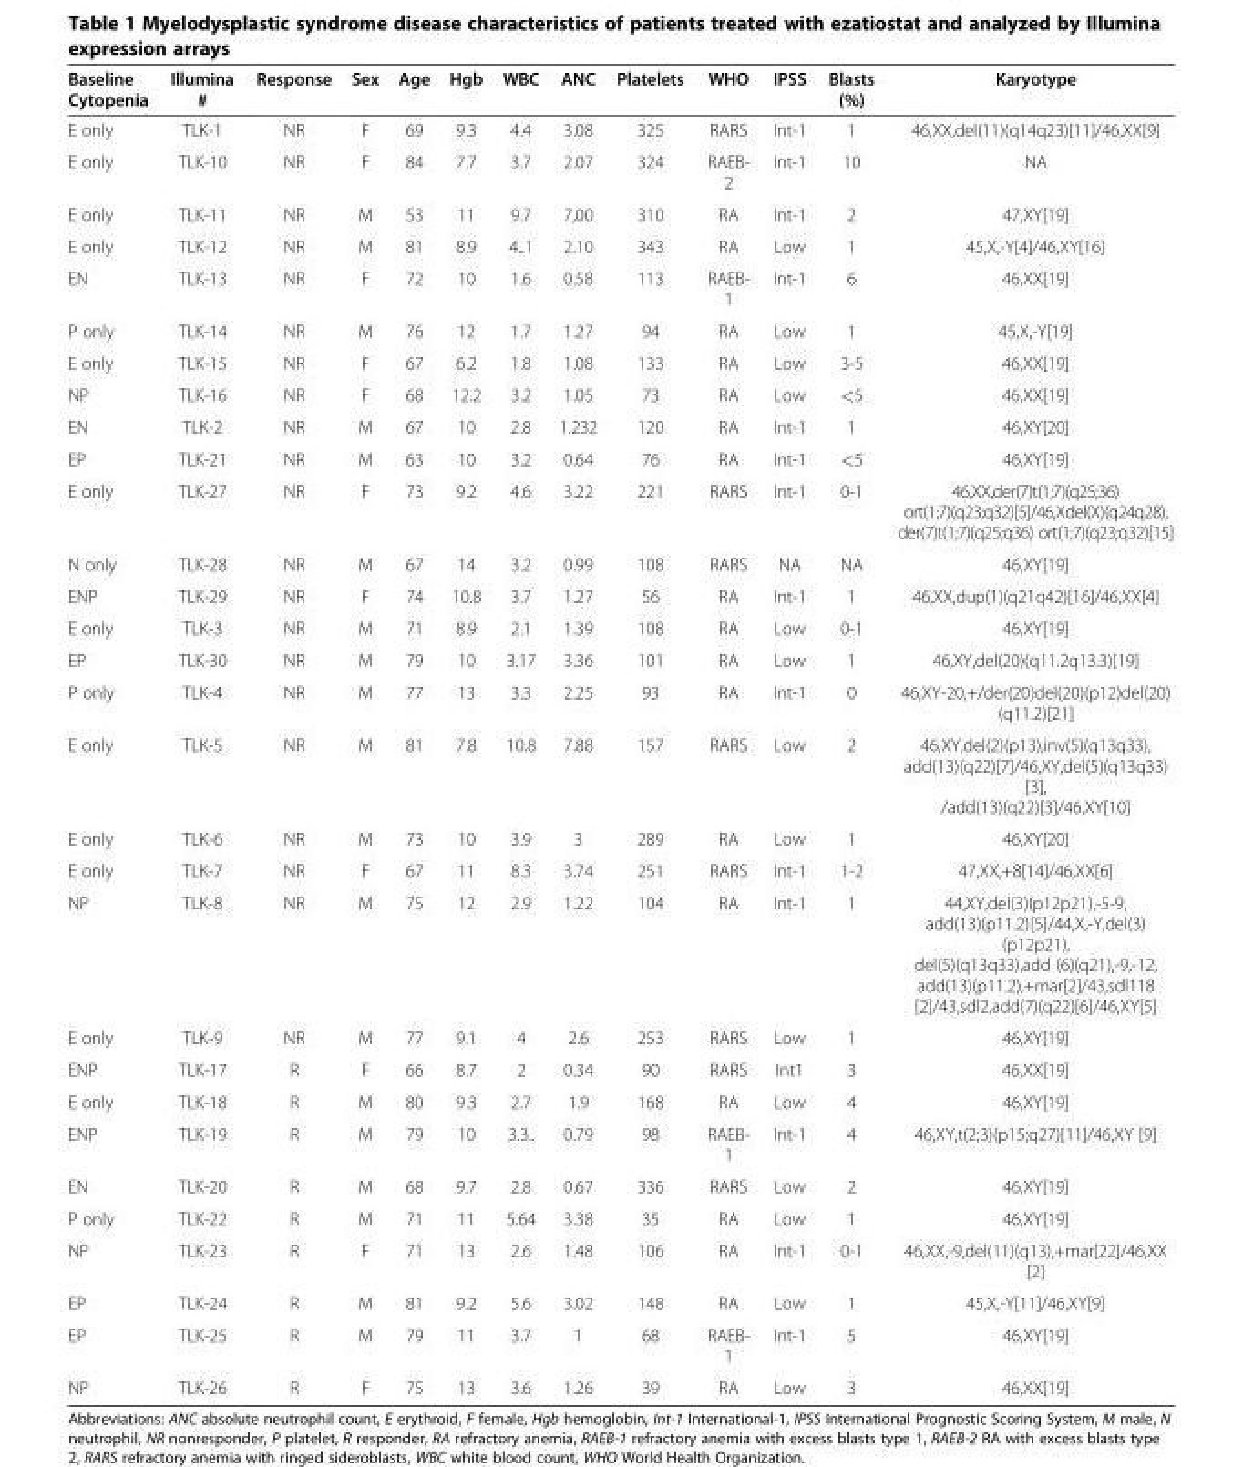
<table><thead><tr><td>Baseline Cytopenia</td><td>Illumina #</td><td>Response</td><td>Sex</td><td>Age</td><td>Hgb</td><td>WBC</td><td>ANC</td><td>Platelets</td><td>WHO</td><td>IPSS</td><td>Blasts (%)</td><td>Karyotype</td></tr></thead><tbody><tr><td>E only</td><td>TLK-1</td><td>NR</td><td>F</td><td>69</td><td>9.3</td><td>4.4</td><td>3.08</td><td>325</td><td>RARS</td><td>Int-1</td><td>1</td><td>46,XX,del(11)(q14q23)[11]/46,XX[9]</td></tr><tr><td>E only</td><td>TLK-10</td><td>NR</td><td>F</td><td>84</td><td>7.7</td><td>3.7</td><td>2.07</td><td>324</td><td>RAEB- 2</td><td>Int-1</td><td>10</td><td>NA</td></tr><tr><td>E only</td><td>TLK-11</td><td>NR</td><td>M</td><td>53</td><td>11</td><td>9.7</td><td>7,00</td><td>310</td><td>RA</td><td>Int-1</td><td>2</td><td>47,XY[19]</td></tr><tr><td>E only</td><td>TLK-12</td><td>NR</td><td>M</td><td>81</td><td>8.9</td><td>4..1</td><td>2.10</td><td>343</td><td>RA</td><td>Low</td><td>1</td><td>45,X,-Y[4]/46,XY[16]</td></tr><tr><td>EN</td><td>TLK-13</td><td>NR</td><td>F</td><td>72</td><td>10</td><td>1.6</td><td>0.58</td><td>113</td><td>RAEB- 1</td><td>Int-1</td><td>6</td><td>46,XX[19]</td></tr><tr><td>P only</td><td>TLK-14</td><td>NR</td><td>M</td><td>76</td><td>12</td><td>1.7</td><td>1.27</td><td>94</td><td>RA</td><td>Low</td><td>1</td><td>45,X,-Y[19]</td></tr><tr><td>E only</td><td>TLK-15</td><td>NR</td><td>F</td><td>67</td><td>6.2</td><td>1.8</td><td>1.08</td><td>133</td><td>RA</td><td>Low</td><td>3-5</td><td>46,XX[19]</td></tr><tr><td>NP</td><td>TLK-16</td><td>NR</td><td>F</td><td>68</td><td>12.2</td><td>3.2</td><td>1.05</td><td>73</td><td>RA</td><td>Low</td><td>&lt;5</td><td>46,XX[19]</td></tr><tr><td>EN</td><td>TLK-2</td><td>NR</td><td>M</td><td>67</td><td>10</td><td>2.8</td><td>1.232</td><td>120</td><td>RA</td><td>Int-1</td><td>1</td><td>46,XY[20]</td></tr><tr><td>EP</td><td>TLK-21</td><td>NR</td><td>M</td><td>63</td><td>10</td><td>3.2</td><td>0.64</td><td>76</td><td>RA</td><td>Int-1</td><td>&lt;5</td><td>46,XY[19]</td></tr><tr><td>E only</td><td>TLK-27</td><td>NR</td><td>F</td><td>73</td><td>9.2</td><td>4.6</td><td>3.22</td><td>221</td><td>RARS</td><td>Int-1</td><td>0-1</td><td>46,XX,der(7)t(1;7)(q25;36) ort(1;7)(q23;q32)[5]/46,Xdel(X)(q24q28), der(7)t(1;7)(q25;q36) ort(1;7)(q23;q32)[15]</td></tr><tr><td>N only</td><td>TLK-28</td><td>NR</td><td>M</td><td>67</td><td>14</td><td>3.2</td><td>0.99</td><td>108</td><td>RARS</td><td>NA</td><td>NA</td><td>46,XY[19]</td></tr><tr><td>ENP</td><td>TLK-29</td><td>NR</td><td>F</td><td>74</td><td>10.8</td><td>3.7</td><td>1.27</td><td>56</td><td>RA</td><td>Int-1</td><td>1</td><td>46,XX,dup(1)(q21q42)[16]/46,XX[4]</td></tr><tr><td>E only</td><td>TLK-3</td><td>NR</td><td>M</td><td>71</td><td>8.9</td><td>2.1</td><td>1.39</td><td>108</td><td>RA</td><td>Low</td><td>0-1</td><td>46,XY[19]</td></tr><tr><td>EP</td><td>TLK-30</td><td>NR</td><td>M</td><td>79</td><td>10</td><td>3.17</td><td>3.36</td><td>101</td><td>RA</td><td>Low</td><td>1</td><td>46,XY,del(20)(q11.2q13.3)[19]</td></tr><tr><td>P only</td><td>TLK-4</td><td>NR</td><td>M</td><td>77</td><td>13</td><td>3.3</td><td>2.25</td><td>93</td><td>RA</td><td>Int-1</td><td>0</td><td>46,XY-20,+/der(20)del(20)(p12)del(20) (q11.2)[21]</td></tr><tr><td>E only</td><td>TLK-5</td><td>NR</td><td>M</td><td>81</td><td>7.8</td><td>10.8</td><td>7.88</td><td>157</td><td>RARS</td><td>Low</td><td>2</td><td>46,XY,del(2)(p13),inv(5)(q13q33), add(13)(q22)[7]/46,XY,del(5)(q13q33) [3], /add(13)(q22)[3]/46,XY[10]</td></tr><tr><td>E only</td><td>TLK-6</td><td>NR</td><td>M</td><td>73</td><td>10</td><td>3.9</td><td>3</td><td>289</td><td>RA</td><td>Low</td><td>1</td><td>46,XY[20]</td></tr><tr><td>E only</td><td>TLK-7</td><td>NR</td><td>F</td><td>67</td><td>11</td><td>8.3</td><td>3.74</td><td>251</td><td>RARS</td><td>Int-1</td><td>1-2</td><td>47,XX,+8[14]/46,XX[6]</td></tr><tr><td>NP</td><td>TLK-8</td><td>NR</td><td>M</td><td>75</td><td>12</td><td>2.9</td><td>1.22</td><td>104</td><td>RA</td><td>Int-1</td><td>1</td><td>44,XY,del(3)(p12p21),-5-9, add(13)(p11.2)[5]/44,X,-Y,del(3) (p12p21), del(5)(q13q33),add (6)(q21),-9,-12, add(13)(p11.2),+mar[2]/43,sdl118 [2]/43,sdl2,add(7)(q22)[6]/46,XY[5]</td></tr><tr><td>E only</td><td>TLK-9</td><td>NR</td><td>M</td><td>77</td><td>9.1</td><td>4</td><td>2.6</td><td>253</td><td>RARS</td><td>Low</td><td>1</td><td>46,XY[19]</td></tr><tr><td>ENP</td><td>TLK-17</td><td>R</td><td>F</td><td>66</td><td>8.7</td><td>2</td><td>0.34</td><td>90</td><td>RARS</td><td>Int1</td><td>3</td><td>46,XX[19]</td></tr><tr><td>E only</td><td>TLK-18</td><td>R</td><td>M</td><td>80</td><td>9.3</td><td>2.7</td><td>1.9</td><td>168</td><td>RA</td><td>Low</td><td>4</td><td>46,XY[19]</td></tr><tr><td>ENP</td><td>TLK-19</td><td>R</td><td>M</td><td>79</td><td>10</td><td>3.3..</td><td>0.79</td><td>98</td><td>RAEB- 1</td><td>Int-1</td><td>4</td><td>46,XY,t(2;3)(p15;q27)[11]/46,XY [9]</td></tr><tr><td>EN</td><td>TLK-20</td><td>R</td><td>M</td><td>68</td><td>9.7</td><td>2.8</td><td>0.67</td><td>336</td><td>RARS</td><td>Low</td><td>2</td><td>46,XY[19]</td></tr><tr><td>P only</td><td>TLK-22</td><td>R</td><td>M</td><td>71</td><td>11</td><td>5.64</td><td>3.38</td><td>35</td><td>RA</td><td>Low</td><td>1</td><td>46,XY[19]</td></tr><tr><td>NP</td><td>TLK-23</td><td>R</td><td>F</td><td>71</td><td>13</td><td>2.6</td><td>1.48</td><td>106</td><td>RA</td><td>Int-1</td><td>0-1</td><td>46,XX,-9,del(11)(q13),+mar[22]/46,XX [2]</td></tr><tr><td>EP</td><td>TLK-24</td><td>R</td><td>M</td><td>81</td><td>9.2</td><td>5.6</td><td>3.02</td><td>148</td><td>RA</td><td>Low</td><td>1</td><td>45,X,-Y[11]/46,XY[9]</td></tr><tr><td>EP</td><td>TLK-25</td><td>R</td><td>M</td><td>79</td><td>11</td><td>3.7</td><td>1</td><td>68</td><td>RAEB- 1</td><td>Int-1</td><td>5</td><td>46,XY[19]</td></tr><tr><td>NP</td><td>TLK-26</td><td>R</td><td>F</td><td>75</td><td>13</td><td>3.6</td><td>1.26</td><td>39</td><td>RA</td><td>Low</td><td>3</td><td>46,XX[19]</td></tr></tbody></table>